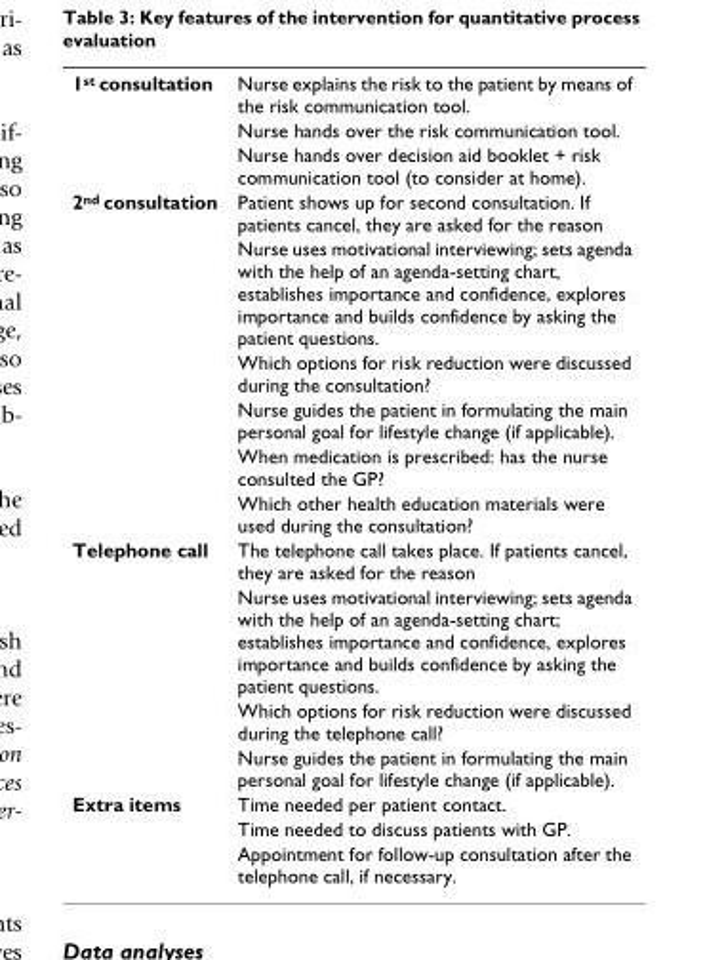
<table><tbody><tr><td rowspan="3">1st consultation</td><td>Nurse explains the risk to the patient by means of the risk communication tool.</td></tr><tr><td>Nurse hands over the risk communication tool.</td></tr><tr><td>Nurse hands over decision aid booklet + risk communication tool (to consider at home).</td></tr><tr><td rowspan="6">2nd consultation</td><td>Patient shows up for second consultation. If patients cancel, they are asked for the reason</td></tr><tr><td>Nurse uses motivational interviewing; sets agenda with the help of an agenda-setting chart, establishes importance and confidence, explores importance and builds confidence by asking the patient questions.</td></tr><tr><td>Which options for risk reduction were discussed during the consultation?</td></tr><tr><td>Nurse guides the patient in formulating the main personal goal for lifestyle change (if applicable).</td></tr><tr><td>When medication is prescribed: has the nurse consulted the GP?</td></tr><tr><td>Which other health education materials were used during the consultation?</td></tr><tr><td rowspan="4">Telephone call</td><td>The telephone call takes place. If patients cancel, they are asked for the reason</td></tr><tr><td>Nurse uses motivational interviewing; sets agenda with the help of an agenda-setting chart; establishes importance and confidence, explores importance and builds confidence by asking the patient questions.</td></tr><tr><td>Which options for risk reduction were discussed during the telephone call?</td></tr><tr><td>Nurse guides the patient in formulating the main personal goal for lifestyle change (if applicable).</td></tr><tr><td rowspan="3">Extra items</td><td>Time needed per patient contact.</td></tr><tr><td>Time needed to discuss patients with GP.</td></tr><tr><td>Appointment for follow-up consultation after the telephone call, if necessary.</td></tr></tbody></table>